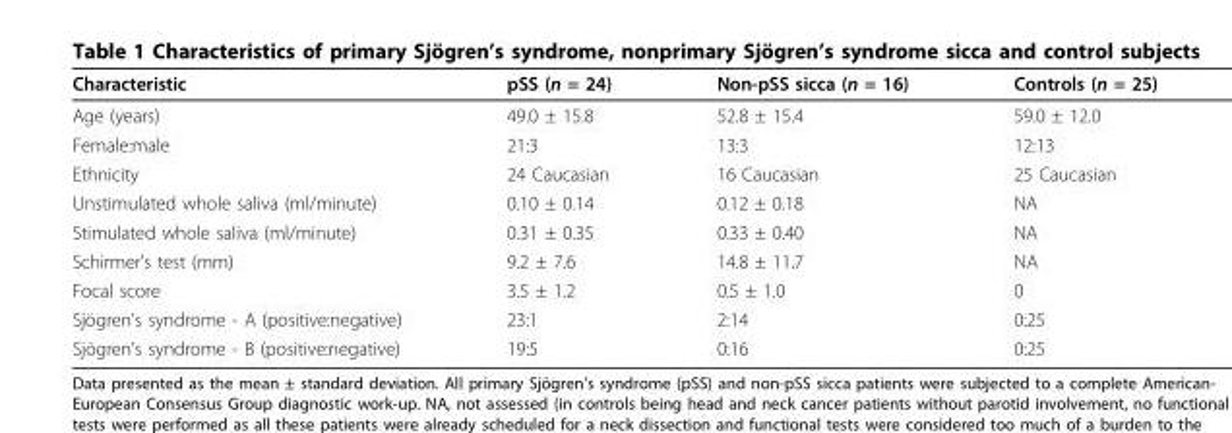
<table><thead><tr><td>Characteristic</td><td>pSS (n = 24)</td><td>Non-pSS sicca (n = 16)</td><td>Controls (n = 25)</td></tr></thead><tbody><tr><td>Age (years)</td><td>49.0 ± 15.8</td><td>52.8 ± 15.4</td><td>59.0 ± 12.0</td></tr><tr><td>Female:male</td><td>21:3</td><td>13:3</td><td>12:13</td></tr><tr><td>Ethnicity</td><td>24 Caucasian</td><td>16 Caucasian</td><td>25 Caucasian</td></tr><tr><td>Unstimulated whole saliva (ml/minute)</td><td>0.10 ± 0.14</td><td>0.12 ± 0.18</td><td>NA</td></tr><tr><td>Stimulated whole saliva (ml/minute)</td><td>0.31 ± 0.35</td><td>0.33 ± 0.40</td><td>NA</td></tr><tr><td>Schirmer’s test (mm)</td><td>9.2 ± 7.6</td><td>14.8 ± 11.7</td><td>NA</td></tr><tr><td>Focal score</td><td>3.5 ± 1.2</td><td>0.5 ± 1.0</td><td>0</td></tr><tr><td>Sjögren’s syndrome - A (positive:negative)</td><td>23:1</td><td>2:14</td><td>0:25</td></tr><tr><td>Sjögren’s syndrome - B (positive:negative)</td><td>19:5</td><td>0:16</td><td>0:25</td></tr></tbody></table>